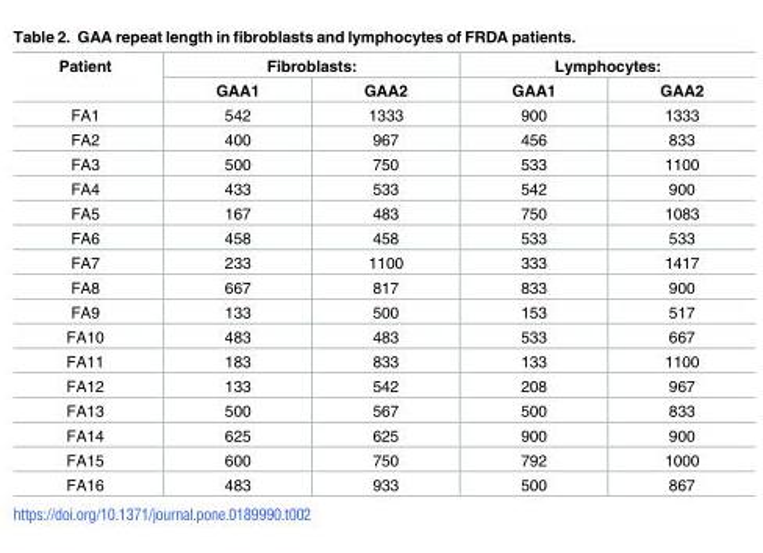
<table><thead><tr><td rowspan="2">Patient</td><td colspan="2">Fibroblasts:</td><td colspan="2">Lymphocytes:</td></tr><tr><td>GAA1</td><td>GAA2</td><td>GAA1</td><td>GAA2</td></tr></thead><tbody><tr><td>FA1</td><td>542</td><td>1333</td><td>900</td><td>1333</td></tr><tr><td>FA2</td><td>400</td><td>967</td><td>456</td><td>833</td></tr><tr><td>FA3</td><td>500</td><td>750</td><td>533</td><td>1100</td></tr><tr><td>FA4</td><td>433</td><td>533</td><td>542</td><td>900</td></tr><tr><td>FA5</td><td>167</td><td>483</td><td>750</td><td>1083</td></tr><tr><td>FA6</td><td>458</td><td>458</td><td>533</td><td>533</td></tr><tr><td>FA7</td><td>233</td><td>1100</td><td>333</td><td>1417</td></tr><tr><td>FA8</td><td>667</td><td>817</td><td>833</td><td>900</td></tr><tr><td>FA9</td><td>133</td><td>500</td><td>153</td><td>517</td></tr><tr><td>FA10</td><td>483</td><td>483</td><td>533</td><td>667</td></tr><tr><td>FA11</td><td>183</td><td>833</td><td>133</td><td>1100</td></tr><tr><td>FA12</td><td>133</td><td>542</td><td>208</td><td>967</td></tr><tr><td>FA13</td><td>500</td><td>567</td><td>500</td><td>833</td></tr><tr><td>FA14</td><td>625</td><td>625</td><td>900</td><td>900</td></tr><tr><td>FA15</td><td>600</td><td>750</td><td>792</td><td>1000</td></tr><tr><td>FA16</td><td>483</td><td>933</td><td>500</td><td>867</td></tr></tbody></table>